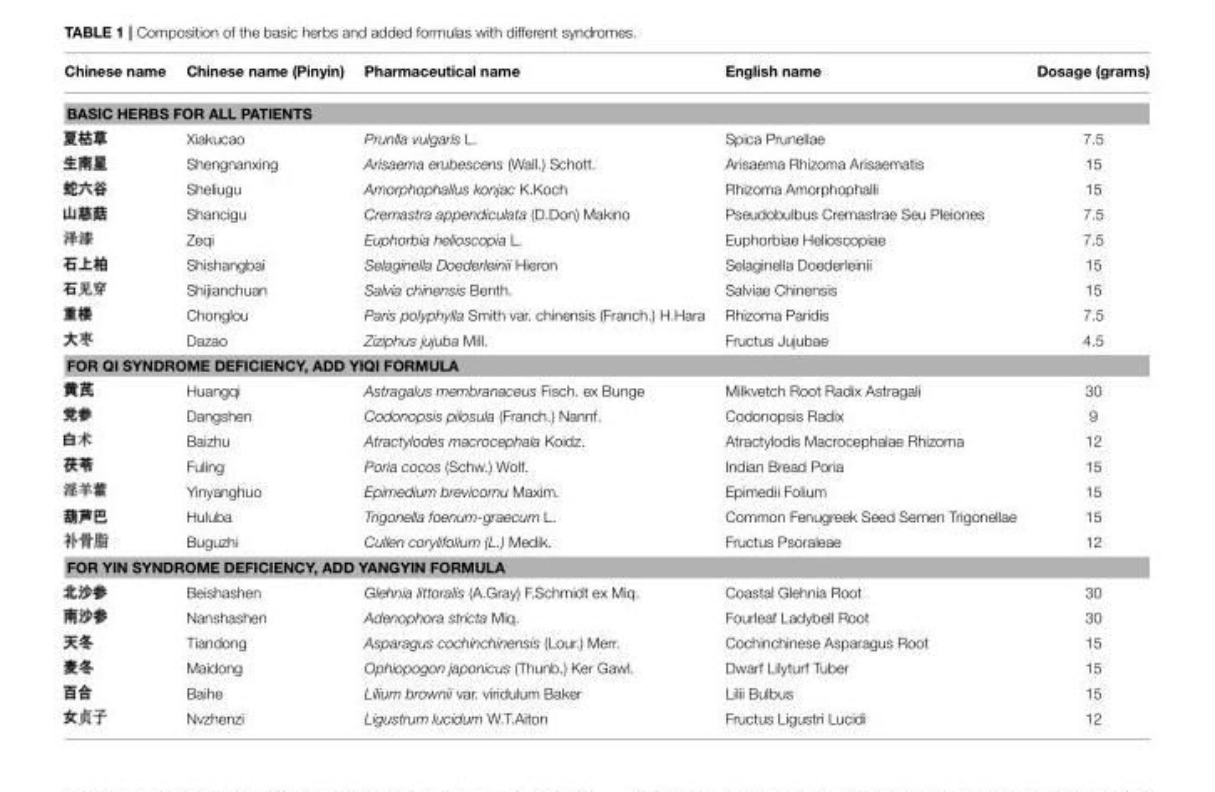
<table><thead><tr><td>Chinese name</td><td>Chinese name (Pinyin)</td><td>Pharmaceutical name</td><td>English name</td><td>Dosage (grams)</td></tr></thead><tbody><tr><td colspan="5">BASIC HERBS FOR ALL PATIENTS</td></tr><tr><td></td><td>Xiakucao</td><td>Prunlla vulgaris L.</td><td>Spica Prunellae</td><td>7.5</td></tr><tr><td></td><td>Shengnanxing</td><td>Arisaema erubescens (Wall.) Schott.</td><td>Arisaema Rhizoma Arisaematis</td><td>15</td></tr><tr><td></td><td>Sheliugu</td><td>Amorphophallus konjac K.Koch</td><td>Rhizoma Amorphophalli</td><td>15</td></tr><tr><td></td><td>Shancigu</td><td>Cremastra appendiculata (D.Don) Makino</td><td>Pseudobulbus Cremastrae Seu Pleiones</td><td>7.5</td></tr><tr><td></td><td>Zeqi</td><td>Euphorbia helioscopia L.</td><td>Euphorbiae Helioscopiae</td><td>7.5</td></tr><tr><td></td><td>Shishangbai</td><td>Selaginella Doederleinii Hieron</td><td>Selaginella Doederleinii</td><td>15</td></tr><tr><td></td><td>Shijianchuan</td><td>Salvia chinensis Benth.</td><td>Salviae Chinensis</td><td>15</td></tr><tr><td></td><td>Chonglou</td><td>Paris polyphylla Smith var. chinensis (Franch.) H.Hara</td><td>Rhizoma Paridis</td><td>7.5</td></tr><tr><td></td><td>Dazao</td><td>Ziziphus jujuba Mill.</td><td>Fructus Jujubae</td><td>4.5</td></tr><tr><td colspan="5">FOR QI SYNDROME DEFICIENCY, ADD YIQI FORMULA</td></tr><tr><td></td><td>Huangqi</td><td>Astragalus membranaceus Fisch. ex Bunge</td><td>Milkvetch Root Radix Astragali</td><td>30</td></tr><tr><td></td><td>Dangshen</td><td>Codonopsis pilosula (Franch.) Nannf.</td><td>Codonopsis Radix</td><td>9</td></tr><tr><td></td><td>Baizhu</td><td>Atractylodes macrocephala Koidz.</td><td>Atractylodis Macrocephalae Rhizoma</td><td>12</td></tr><tr><td></td><td>Fuling</td><td>Poria cocos (Schw.) Wolf.</td><td>Indian Bread Poria</td><td>15</td></tr><tr><td></td><td>Yinyanghuo</td><td>Epimedium brevicornu Maxim.</td><td>Epimedii Folium</td><td>15</td></tr><tr><td></td><td>Huluba</td><td>Trigonella foenum-graecum L.</td><td>Common Fenugreek Seed Semen Trigonellae</td><td>15</td></tr><tr><td></td><td>Buguzhi</td><td>Cullen corylifolium (L.) Medik.</td><td>Fructus Psoraleae</td><td>12</td></tr><tr><td colspan="5">FOR YIN SYNDROME DEFICIENCY, ADD YANGYIN FORMULA</td></tr><tr><td></td><td>Beishashen</td><td>Glehnia littoralis (A.Gray) F.Schmidt ex Miq.</td><td>Coastal Glehnia Root</td><td>30</td></tr><tr><td></td><td>Nanshashen</td><td>Adenophora stricta Miq.</td><td>Fourleaf Ladybell Root</td><td>30</td></tr><tr><td></td><td>Tiandong</td><td>Asparagus cochinchinensis (Lour.) Merr.</td><td>Cochinchinese Asparagus Root</td><td>15</td></tr><tr><td></td><td>Maidong</td><td>Ophiopogon japonicus (Thunb.) Ker Gawl.</td><td>Dwarf Lilyturf Tuber</td><td>15</td></tr><tr><td></td><td>Baihe</td><td>Lilium brownii var. viridulum Baker</td><td>Lilii Bulbus</td><td>15</td></tr><tr><td></td><td>Nvzhenzi</td><td>Ligustrum lucidum W.T.Aiton</td><td>Fructus Ligustri Lucidi</td><td>12</td></tr></tbody></table>